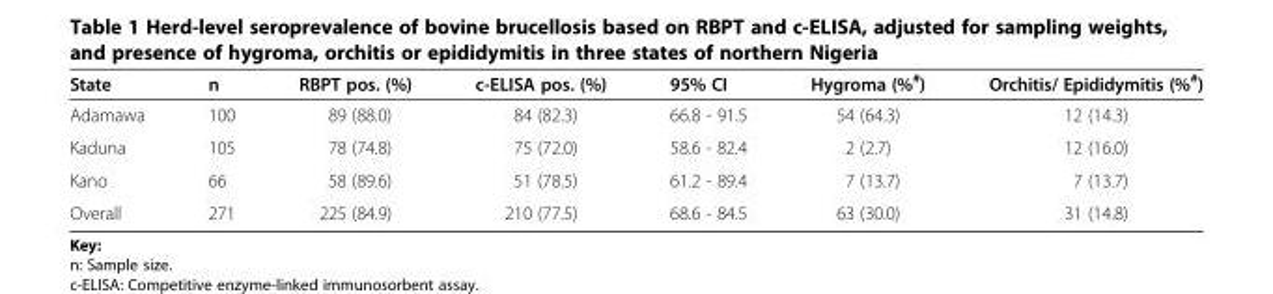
<table><thead><tr><td>State</td><td>n</td><td>RBPT pos. (%)</td><td>c-ELISA pos. (%)</td><td>95% CI</td><td>Hygroma (%<sup>#</sup>)</td><td>Orchitis/ Epididymitis (%<sup>#</sup>)</td></tr></thead><tbody><tr><td>Adamawa</td><td>100</td><td>89 (88.0)</td><td>84 (82.3)</td><td>66.8 - 91.5</td><td>54 (64.3)</td><td>12 (14.3)</td></tr><tr><td>Kaduna</td><td>105</td><td>78 (74.8)</td><td>75 (72.0)</td><td>58.6 - 82.4</td><td>2 (2.7)</td><td>12 (16.0)</td></tr><tr><td>Kano</td><td>66</td><td>58 (89.6)</td><td>51 (78.5)</td><td>61.2 - 89.4</td><td>7 (13.7)</td><td>7 (13.7)</td></tr><tr><td>Overall</td><td>271</td><td>225 (84.9)</td><td>210 (77.5)</td><td>68.6 - 84.5</td><td>63 (30.0)</td><td>31 (14.8)</td></tr></tbody></table>